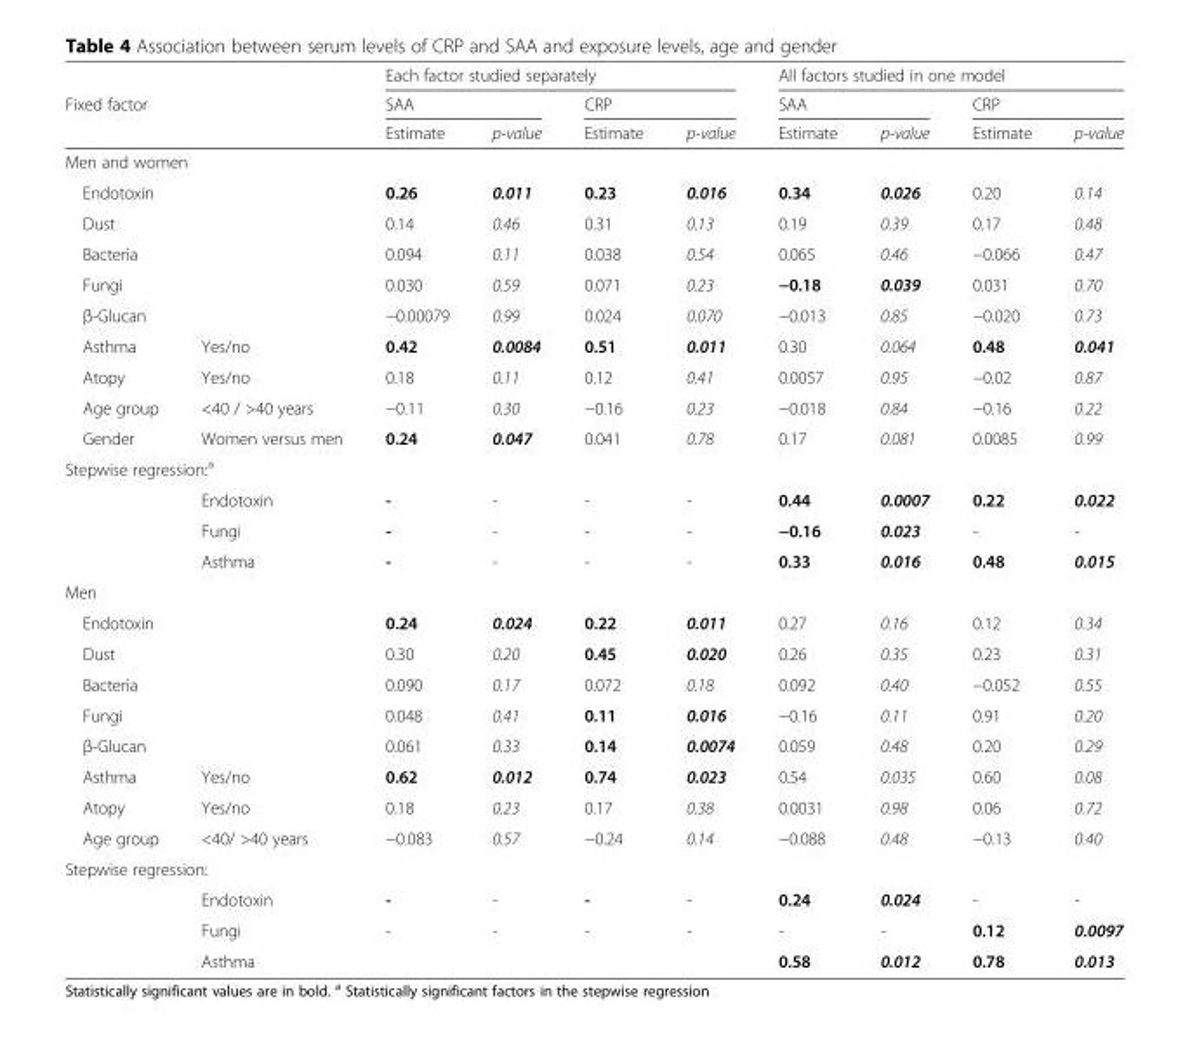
<table><thead><tr><td rowspan="3">Fixed factor</td><td rowspan="3"></td><td colspan="4">Each factor studied separately</td><td colspan="4">All factors studied in one model</td></tr><tr><td colspan="2">SAA</td><td colspan="2">CRP</td><td colspan="2">SAA</td><td colspan="2">CRP</td></tr><tr><td>Estimate</td><td>p-value</td><td>Estimate</td><td>p-value</td><td>Estimate</td><td>p-value</td><td>Estimate</td><td>p-value</td></tr></thead><tbody><tr><td colspan="10">Men and women</td></tr><tr><td>Endotoxin</td><td></td><td>0.26</td><td>0.011</td><td>0.23</td><td>0.016</td><td>0.34</td><td>0.026</td><td>0.20</td><td>0.14</td></tr><tr><td>Dust</td><td></td><td>0.14</td><td>0.46</td><td>0.31</td><td>0.13</td><td>0.19</td><td>0.39</td><td>0.17</td><td>0.48</td></tr><tr><td>Bacteria</td><td></td><td>0.094</td><td>0.11</td><td>0.038</td><td>0.54</td><td>0.065</td><td>0.46</td><td>−0.066</td><td>0.47</td></tr><tr><td>Fungi</td><td></td><td>0.030</td><td>0.59</td><td>0.071</td><td>0.23</td><td>−0.18</td><td>0.039</td><td>0.031</td><td>0.70</td></tr><tr><td>β-Glucan</td><td></td><td>−0.00079</td><td>0.99</td><td>0.024</td><td>0.070</td><td>−0.013</td><td>0.85</td><td>−0.020</td><td>0.73</td></tr><tr><td>Asthma</td><td>Yes/no</td><td>0.42</td><td>0.0084</td><td>0.51</td><td>0.011</td><td>0.30</td><td>0.064</td><td>0.48</td><td>0.041</td></tr><tr><td>Atopy</td><td>Yes/no</td><td>0.18</td><td>0.11</td><td>0.12</td><td>0.41</td><td>0.0057</td><td>0.95</td><td>−0.02</td><td>0.87</td></tr><tr><td>Age group</td><td>&lt;40 / &gt;40 years</td><td>−0.11</td><td>0.30</td><td>−0.16</td><td>0.23</td><td>−0.018</td><td>0.84</td><td>−0.16</td><td>0.22</td></tr><tr><td>Gender</td><td>Women versus men</td><td>0.24</td><td>0.047</td><td>0.041</td><td>0.78</td><td>0.17</td><td>0.081</td><td>0.0085</td><td>0.99</td></tr><tr><td colspan="10">Stepwise regression:<sup>a</sup></td></tr><tr><td></td><td>Endotoxin</td><td>-</td><td>-</td><td>-</td><td>-</td><td>0.44</td><td>0.0007</td><td>0.22</td><td>0.022</td></tr><tr><td></td><td>Fungi</td><td>-</td><td>-</td><td>-</td><td>-</td><td>−0.16</td><td>0.023</td><td>-</td><td>-</td></tr><tr><td></td><td>Asthma</td><td>-</td><td>-</td><td>-</td><td>-</td><td>0.33</td><td>0.016</td><td>0.48</td><td>0.015</td></tr><tr><td colspan="10">Men</td></tr><tr><td>Endotoxin</td><td></td><td>0.24</td><td>0.024</td><td>0.22</td><td>0.011</td><td>0.27</td><td>0.16</td><td>0.12</td><td>0.34</td></tr><tr><td>Dust</td><td></td><td>0.30</td><td>0.20</td><td>0.45</td><td>0.020</td><td>0.26</td><td>0.35</td><td>0.23</td><td>0.31</td></tr><tr><td>Bacteria</td><td></td><td>0.090</td><td>0.17</td><td>0.072</td><td>0.18</td><td>0.092</td><td>0.40</td><td>−0.052</td><td>0.55</td></tr><tr><td>Fungi</td><td></td><td>0.048</td><td>0.41</td><td>0.11</td><td>0.016</td><td>−0.16</td><td>0.11</td><td>0.91</td><td>0.20</td></tr><tr><td>β-Glucan</td><td></td><td>0.061</td><td>0.33</td><td>0.14</td><td>0.0074</td><td>0.059</td><td>0.48</td><td>0.20</td><td>0.29</td></tr><tr><td>Asthma</td><td>Yes/no</td><td>0.62</td><td>0.012</td><td>0.74</td><td>0.023</td><td>0.54</td><td>0.035</td><td>0.60</td><td>0.08</td></tr><tr><td>Atopy</td><td>Yes/no</td><td>0.18</td><td>0.23</td><td>0.17</td><td>0.38</td><td>0.0031</td><td>0.98</td><td>0.06</td><td>0.72</td></tr><tr><td>Age group</td><td>&lt;40/ &gt;40 years</td><td>−0.083</td><td>0.57</td><td>−0.24</td><td>0.14</td><td>−0.088</td><td>0.48</td><td>−0.13</td><td>0.40</td></tr><tr><td colspan="10">Stepwise regression:</td></tr><tr><td></td><td>Endotoxin</td><td>-</td><td>-</td><td>-</td><td>-</td><td>0.24</td><td>0.024</td><td>-</td><td>-</td></tr><tr><td></td><td>Fungi</td><td>-</td><td>-</td><td>-</td><td>-</td><td>-</td><td>-</td><td>0.12</td><td>0.0097</td></tr><tr><td></td><td>Asthma</td><td></td><td></td><td></td><td></td><td>0.58</td><td>0.012</td><td>0.78</td><td>0.013</td></tr></tbody></table>